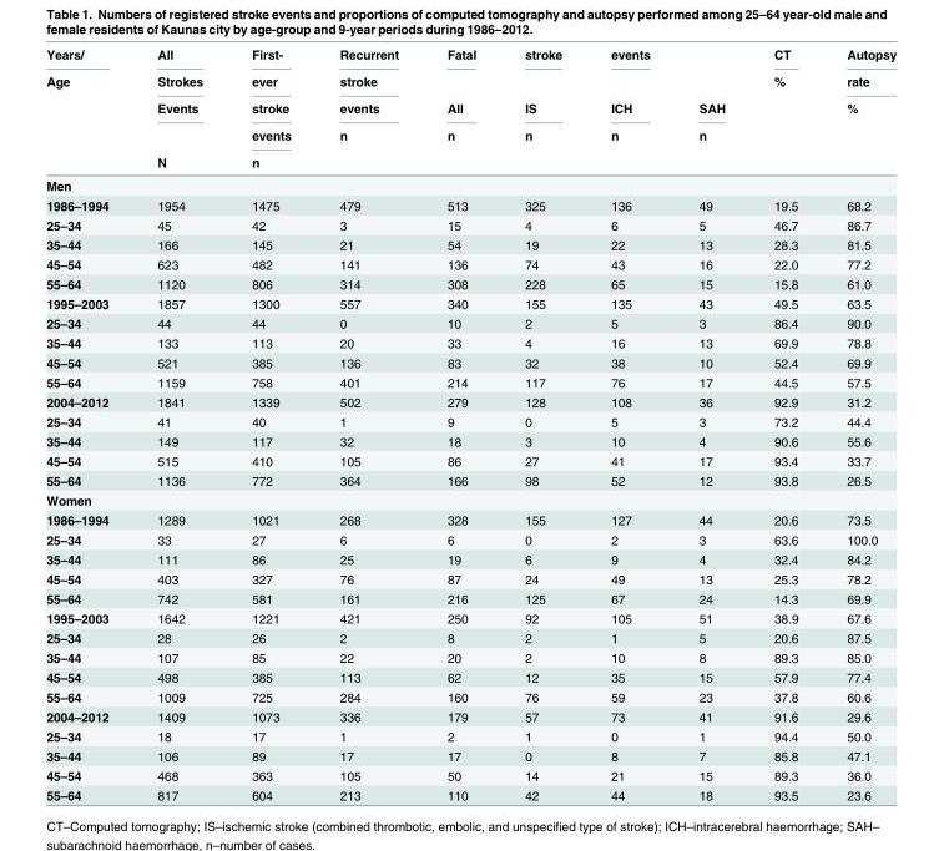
<table><thead><tr><td rowspan="5">Years/ Age</td><td rowspan="5">All Strokes Events N</td><td rowspan="5">First- ever stroke events n</td><td rowspan="5">Recurrent stroke events n</td><td rowspan="5">Fatal All n</td><td rowspan="5">stroke IS n</td><td rowspan="5">events ICH n</td><td rowspan="5">SAH n</td><td rowspan="5">CT %</td><td rowspan="5">Autopsy rate %</td></tr><tr></tr><tr></tr><tr></tr><tr></tr></thead><tbody><tr><td colspan="10">Men</td></tr><tr><td>1986–1994</td><td>1954</td><td>1475</td><td>479</td><td>513</td><td>325</td><td>136</td><td>49</td><td>19.5</td><td>68.2</td></tr><tr><td>25–34</td><td>45</td><td>42</td><td>3</td><td>15</td><td>4</td><td>6</td><td>5</td><td>46.7</td><td>86.7</td></tr><tr><td>35–44</td><td>166</td><td>145</td><td>21</td><td>54</td><td>19</td><td>22</td><td>13</td><td>28.3</td><td>81.5</td></tr><tr><td>45–54</td><td>623</td><td>482</td><td>141</td><td>136</td><td>74</td><td>43</td><td>16</td><td>22.0</td><td>77.2</td></tr><tr><td>55–64</td><td>1120</td><td>806</td><td>314</td><td>308</td><td>228</td><td>65</td><td>15</td><td>15.8</td><td>61.0</td></tr><tr><td>1995–2003</td><td>1857</td><td>1300</td><td>557</td><td>340</td><td>155</td><td>135</td><td>43</td><td>49.5</td><td>63.5</td></tr><tr><td>25–34</td><td>44</td><td>44</td><td>0</td><td>10</td><td>2</td><td>5</td><td>3</td><td>86.4</td><td>90.0</td></tr><tr><td>35–44</td><td>133</td><td>113</td><td>20</td><td>33</td><td>4</td><td>16</td><td>13</td><td>69.9</td><td>78.8</td></tr><tr><td>45–54</td><td>521</td><td>385</td><td>136</td><td>83</td><td>32</td><td>38</td><td>10</td><td>52.4</td><td>69.9</td></tr><tr><td>55–64</td><td>1159</td><td>758</td><td>401</td><td>214</td><td>117</td><td>76</td><td>17</td><td>44.5</td><td>57.5</td></tr><tr><td>2004–2012</td><td>1841</td><td>1339</td><td>502</td><td>279</td><td>128</td><td>108</td><td>36</td><td>92.9</td><td>31.2</td></tr><tr><td>25–34</td><td>41</td><td>40</td><td>1</td><td>9</td><td>0</td><td>5</td><td>3</td><td>73.2</td><td>44.4</td></tr><tr><td>35–44</td><td>149</td><td>117</td><td>32</td><td>18</td><td>3</td><td>10</td><td>4</td><td>90.6</td><td>55.6</td></tr><tr><td>45–54</td><td>515</td><td>410</td><td>105</td><td>86</td><td>27</td><td>41</td><td>17</td><td>93.4</td><td>33.7</td></tr><tr><td>55–64</td><td>1136</td><td>772</td><td>364</td><td>166</td><td>98</td><td>52</td><td>12</td><td>93.8</td><td>26.5</td></tr><tr><td colspan="10">Women</td></tr><tr><td>1986–1994</td><td>1289</td><td>1021</td><td>268</td><td>328</td><td>155</td><td>127</td><td>44</td><td>20.6</td><td>73.5</td></tr><tr><td>25–34</td><td>33</td><td>27</td><td>6</td><td>6</td><td>0</td><td>2</td><td>3</td><td>63.6</td><td>100.0</td></tr><tr><td>35–44</td><td>111</td><td>86</td><td>25</td><td>19</td><td>6</td><td>9</td><td>4</td><td>32.4</td><td>84.2</td></tr><tr><td>45–54</td><td>403</td><td>327</td><td>76</td><td>87</td><td>24</td><td>49</td><td>13</td><td>25.3</td><td>78.2</td></tr><tr><td>55–64</td><td>742</td><td>581</td><td>161</td><td>216</td><td>125</td><td>67</td><td>24</td><td>14.3</td><td>69.9</td></tr><tr><td>1995–2003</td><td>1642</td><td>1221</td><td>421</td><td>250</td><td>92</td><td>105</td><td>51</td><td>38.9</td><td>67.6</td></tr><tr><td>25–34</td><td>28</td><td>26</td><td>2</td><td>8</td><td>2</td><td>1</td><td>5</td><td>20.6</td><td>87.5</td></tr><tr><td>35–44</td><td>107</td><td>85</td><td>22</td><td>20</td><td>2</td><td>10</td><td>8</td><td>89.3</td><td>85.0</td></tr><tr><td>45–54</td><td>498</td><td>385</td><td>113</td><td>62</td><td>12</td><td>35</td><td>15</td><td>57.9</td><td>77.4</td></tr><tr><td>55–64</td><td>1009</td><td>725</td><td>284</td><td>160</td><td>76</td><td>59</td><td>23</td><td>37.8</td><td>60.6</td></tr><tr><td>2004–2012</td><td>1409</td><td>1073</td><td>336</td><td>179</td><td>57</td><td>73</td><td>41</td><td>91.6</td><td>29.6</td></tr><tr><td>25–34</td><td>18</td><td>17</td><td>1</td><td>2</td><td>1</td><td>0</td><td>1</td><td>94.4</td><td>50.0</td></tr><tr><td>35–44</td><td>106</td><td>89</td><td>17</td><td>17</td><td>0</td><td>8</td><td>7</td><td>85.8</td><td>47.1</td></tr><tr><td>45–54</td><td>468</td><td>363</td><td>105</td><td>50</td><td>14</td><td>21</td><td>15</td><td>89.3</td><td>36.0</td></tr><tr><td>55–64</td><td>817</td><td>604</td><td>213</td><td>110</td><td>42</td><td>44</td><td>18</td><td>93.5</td><td>23.6</td></tr></tbody></table>